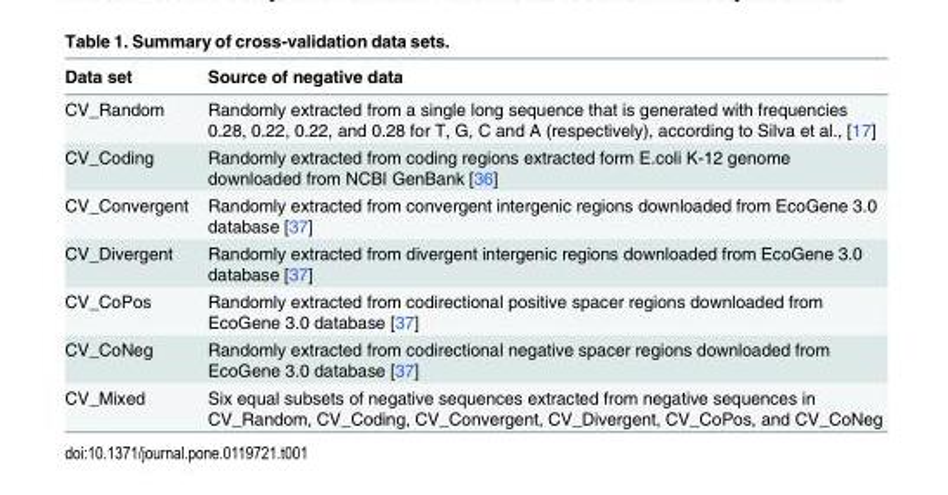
<table><thead><tr><td>Data set</td><td>Source of negative data</td></tr></thead><tbody><tr><td>CV_Random</td><td>Randomly extracted from a single long sequence that is generated with frequencies 0.28, 0.22, 0.22, and 0.28 for T, G, C and A (respectively), according to Silva et al., [17]</td></tr><tr><td>CV_Coding</td><td>Randomly extracted from coding regions extracted form E.coli K-12 genome downloaded from NCBI GenBank [36]</td></tr><tr><td>CV_Convergent</td><td>Randomly extracted from convergent intergenic regions downloaded from EcoGene 3.0 database [37]</td></tr><tr><td>CV_Divergent</td><td>Randomly extracted from divergent intergenic regions downloaded from EcoGene 3.0 database [37]</td></tr><tr><td>CV_CoPos</td><td>Randomly extracted from codirectional positive spacer regions downloaded from EcoGene 3.0 database [37]</td></tr><tr><td>CV_CoNeg</td><td>Randomly extracted from codirectional negative spacer regions downloaded from EcoGene 3.0 database [37]</td></tr><tr><td>CV_Mixed</td><td>Six equal subsets of negative sequences extracted from negative sequences in CV_Random, CV_Coding, CV_Convergent, CV_Divergent, CV_CoPos, and CV_CoNeg</td></tr></tbody></table>